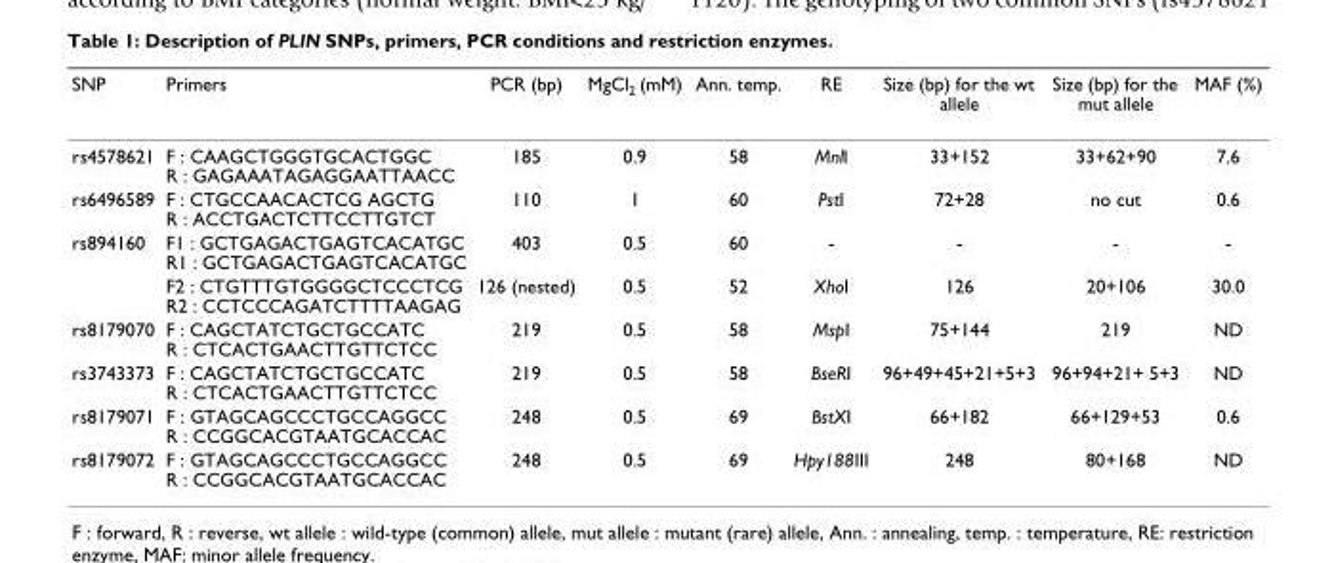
<table><thead><tr><td>SNP</td><td>Primers</td><td>PCR (bp)</td><td>MgCl<sub>2</sub> (mM)</td><td>Ann. temp.</td><td>RE</td><td>Size (bp) for the wt allele</td><td>Size (bp) for the mut allele</td><td>MAF (%)</td></tr></thead><tbody><tr><td>rs4578621</td><td>F : CAAGCTGGGTGCACTGGC R : GAGAAATAGAGGAATTAACC</td><td>185</td><td>0.9</td><td>58</td><td>MnlI</td><td>33+152</td><td>33+62+90</td><td>7.6</td></tr><tr><td>rs6496589</td><td>F : CTGCCAACACTCG AGCTG R : ACCTGACTCTTCCTTGTCT</td><td>110</td><td>1</td><td>60</td><td>PstI</td><td>72+28</td><td>no cut</td><td>0.6</td></tr><tr><td rowspan="2">rs894160</td><td>F1 : GCTGAGACTGAGTCACATGC R1 : GCTGAGACTGAGTCACATGC</td><td>403</td><td>0.5</td><td>60</td><td>-</td><td>-</td><td>-</td><td>-</td></tr><tr><td>F2 : CTGTTTGTGGGGCTCCCTCG R2 : CCTCCCAGATCTTTTAAGAG</td><td>126 (nested)</td><td>0.5</td><td>52</td><td>XhoI</td><td>126</td><td>20+106</td><td>30.0</td></tr><tr><td>rs8179070</td><td>F : CAGCTATCTGCTGCCATC R : CTCACTGAACTTGTTCTCC</td><td>219</td><td>0.5</td><td>58</td><td>MspI</td><td>75+144</td><td>219</td><td>ND</td></tr><tr><td>rs3743373</td><td>F : CAGCTATCTGCTGCCATC R : CTCACTGAACTTGTTCTCC</td><td>219</td><td>0.5</td><td>58</td><td>BseRI</td><td>96+49+45+21+5+3</td><td>96+94+21+ 5+3</td><td>ND</td></tr><tr><td>rs8179071</td><td>F : GTAGCAGCCCTGCCAGGCC R : CCGGCACGTAATGCACCAC</td><td>248</td><td>0.5</td><td>69</td><td>BstXI</td><td>66+182</td><td>66+129+53</td><td>0.6</td></tr><tr><td>rs8179072</td><td>F : GTAGCAGCCCTGCCAGGCC R : CCGGCACGTAATGCACCAC</td><td>248</td><td>0.5</td><td>69</td><td>Hpy188III</td><td>248</td><td>80+168</td><td>ND</td></tr></tbody></table>